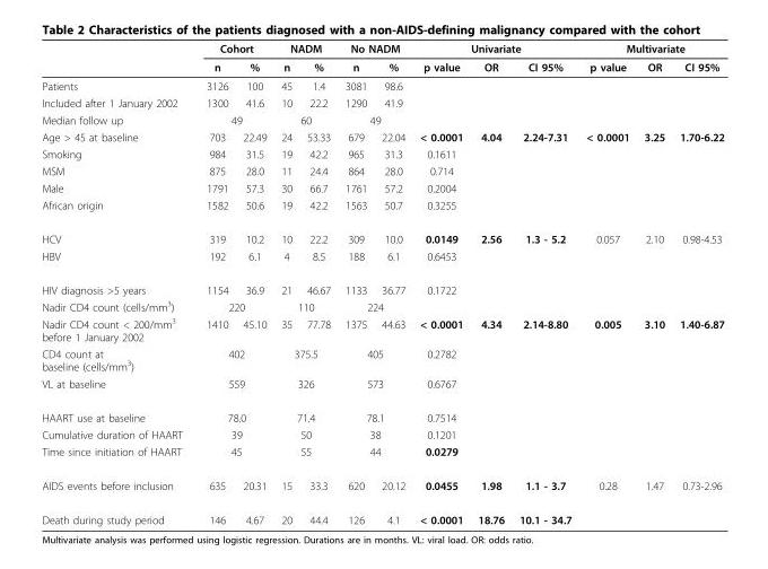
<table><thead><tr><td rowspan="2"></td><td colspan="2">Cohort</td><td colspan="2">NADM</td><td colspan="2">No NADM</td><td colspan="3">Univariate</td><td colspan="3">Multivariate</td></tr><tr><td>n</td><td>%</td><td>n</td><td>%</td><td>n</td><td>%</td><td>p value</td><td>OR</td><td>CI 95%</td><td>p value</td><td>OR</td><td>CI 95%</td></tr></thead><tbody><tr><td>Patients</td><td>3126</td><td>100</td><td>45</td><td>1.4</td><td>3081</td><td>98.6</td><td></td><td></td><td></td><td></td><td></td><td></td></tr><tr><td>Included after 1 January 2002</td><td>1300</td><td>41.6</td><td>10</td><td>22.2</td><td>1290</td><td>41.9</td><td></td><td></td><td></td><td></td><td></td><td></td></tr><tr><td>Median follow up</td><td colspan="2">49</td><td colspan="2">60</td><td colspan="2">49</td><td></td><td></td><td></td><td></td><td></td><td></td></tr><tr><td>Age &gt; 45 at baseline</td><td>703</td><td>22.49</td><td>24</td><td>53.33</td><td>679</td><td>22.04</td><td>&lt; 0.0001</td><td>4.04</td><td>2.24-7.31</td><td>&lt; 0.0001</td><td>3.25</td><td>1.70-6.22</td></tr><tr><td>Smoking</td><td>984</td><td>31.5</td><td>19</td><td>42.2</td><td>965</td><td>31.3</td><td>0.1611</td><td></td><td></td><td></td><td></td><td></td></tr><tr><td>MSM</td><td>875</td><td>28.0</td><td>11</td><td>24.4</td><td>864</td><td>28.0</td><td>0.714</td><td></td><td></td><td></td><td></td><td></td></tr><tr><td>Male</td><td>1791</td><td>57.3</td><td>30</td><td>66.7</td><td>1761</td><td>57.2</td><td>0.2004</td><td></td><td></td><td></td><td></td><td></td></tr><tr><td>African origin</td><td>1582</td><td>50.6</td><td>19</td><td>42.2</td><td>1563</td><td>50.7</td><td>0.3255</td><td></td><td></td><td></td><td></td><td></td></tr><tr><td>HCV</td><td>319</td><td>10.2</td><td>10</td><td>22.2</td><td>309</td><td>10.0</td><td>0.0149</td><td>2.56</td><td>1.3 - 5.2</td><td>0.057</td><td>2.10</td><td>0.98-4.53</td></tr><tr><td>HBV</td><td>192</td><td>6.1</td><td>4</td><td>8.5</td><td>188</td><td>6.1</td><td>0.6453</td><td></td><td></td><td></td><td></td><td></td></tr><tr><td>HIV diagnosis &gt;5 years</td><td>1154</td><td>36.9</td><td>21</td><td>46.67</td><td>1133</td><td>36.77</td><td>0.1722</td><td></td><td></td><td></td><td></td><td></td></tr><tr><td>Nadir CD4 count (cells/mm<sup>3</sup>)</td><td colspan="2">220</td><td colspan="2">110</td><td colspan="2">224</td><td></td><td></td><td></td><td></td><td></td><td></td></tr><tr><td>Nadir CD4 count &lt; 200/mm<sup>3</sup> before 1 January 2002</td><td>1410</td><td>45.10</td><td>35</td><td>77.78</td><td>1375</td><td>44.63</td><td>&lt; 0.0001</td><td>4.34</td><td>2.14-8.80</td><td>0.005</td><td>3.10</td><td>1.40-6.87</td></tr><tr><td>CD4 count at baseline (cells/mm<sup>3</sup>)</td><td colspan="2">402</td><td colspan="2">375.5</td><td colspan="2">405</td><td>0.2782</td><td></td><td></td><td></td><td></td><td></td></tr><tr><td>VL at baseline</td><td colspan="2">559</td><td colspan="2">326</td><td colspan="2">573</td><td>0.6767</td><td></td><td></td><td></td><td></td><td></td></tr><tr><td>HAART use at baseline</td><td colspan="2">78.0</td><td colspan="2">71.4</td><td colspan="2">78.1</td><td>0.7514</td><td></td><td></td><td></td><td></td><td></td></tr><tr><td>Cumulative duration of HAART</td><td colspan="2">39</td><td colspan="2">50</td><td colspan="2">38</td><td>0.1201</td><td></td><td></td><td></td><td></td><td></td></tr><tr><td>Time since initiation of HAART</td><td colspan="2">45</td><td colspan="2">55</td><td colspan="2">44</td><td>0.0279</td><td></td><td></td><td></td><td></td><td></td></tr><tr><td>AIDS events before inclusion</td><td>635</td><td>20.31</td><td>15</td><td>33.3</td><td>620</td><td>20.12</td><td>0.0455</td><td>1.98</td><td>1.1 - 3.7</td><td>0.28</td><td>1.47</td><td>0.73-2.96</td></tr><tr><td>Death during study period</td><td>146</td><td>4.67</td><td>20</td><td>44.4</td><td>126</td><td>4.1</td><td>&lt; 0.0001</td><td>18.76</td><td>10.1 - 34.7</td><td></td><td></td><td></td></tr></tbody></table>